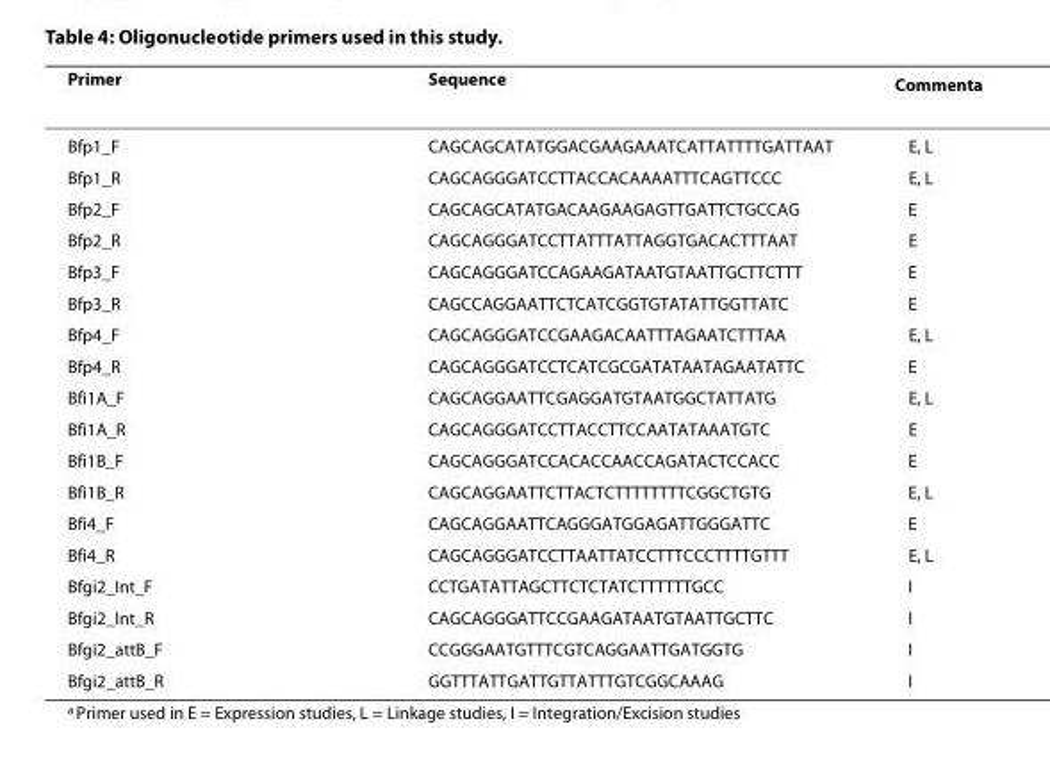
<table><thead><tr><td>Primer</td><td>Sequence</td><td>Comment<sup>a</sup></td></tr></thead><tbody><tr><td>Bfp1_F</td><td>CAGCAGCATATGGACGAAGAAATCATTATTTTGATTAAT</td><td>E, L</td></tr><tr><td>Bfp1_R</td><td>CAGCAGGGATCCTTACCACAAAATTTCAGTTCCC</td><td>E, L</td></tr><tr><td>Bfp2_F</td><td>CAGCAGCATATGACAAGAAGAGTTGATTCTGCCAG</td><td>E</td></tr><tr><td>Bfp2_R</td><td>CAGCAGGGATCCTTATTTATTAGGTGACACTTTAAT</td><td>E</td></tr><tr><td>Bfp3_F</td><td>CAGCAGGGATCCAGAAGATAATGTAATTGCTTCTTT</td><td>E</td></tr><tr><td>Bfp3_R</td><td>CAGCCAGGAATTCTCATCGGTGTATATTGGTTATC</td><td>E</td></tr><tr><td>Bfp4_F</td><td>CAGCAGGGATCCGAAGACAATTTAGAATCTTTAA</td><td>E, L</td></tr><tr><td>Bfp4_R</td><td>CAGCAGGGATCCTCATCGCGATATAATAGAATATTC</td><td>E</td></tr><tr><td>Bfi1A_F</td><td>CAGCAGGAATTCGAGGATGTAATGGCTATTATG</td><td>E, L</td></tr><tr><td>Bfi1A_R</td><td>CAGCAGGGATCCTTACCTTCCAATATAAATGTC</td><td>E</td></tr><tr><td>Bfi1B_F</td><td>CAGCAGGGATCCACACCAACCAGATACTCCACC</td><td>E</td></tr><tr><td>Bfi1B_R</td><td>CAGCAGGAATTCTTACTCTTTTTTTTCGGCTGTG</td><td>E, L</td></tr><tr><td>Bfi4_F</td><td>CAGCAGGAATTCAGGGATGGAGATTGGGATTC</td><td>E</td></tr><tr><td>Bfi4_R</td><td>CAGCAGGGATCCTTAATTATCCTTTCCCTTTTGTTT</td><td>E, L</td></tr><tr><td>Bfgi2_Int_F</td><td>CCTGATATTAGCTTCTCTATCTTTTTTGCC</td><td>I</td></tr><tr><td>Bfgi2_Int_R</td><td>CAGCAGGGATTCCGAAGATAATGTAATTGCTTC</td><td>I</td></tr><tr><td>Bfgi2_attB_F</td><td>CCGGGAATGTTTCGTCAGGAATTGATGGTG</td><td>I</td></tr><tr><td>Bfgi2_attB_R</td><td>GGTTTATTGATTGTTATTTGTCGGCAAAG</td><td>I</td></tr></tbody></table>